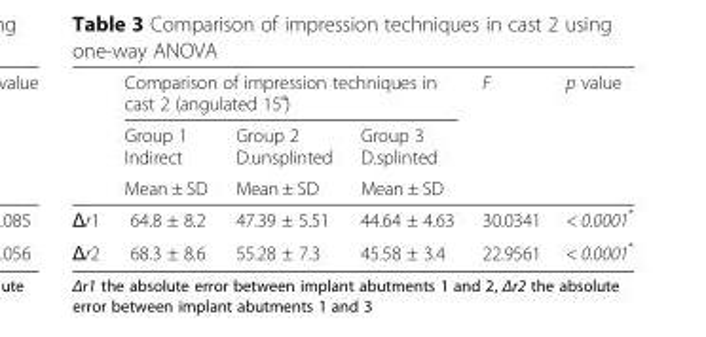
<table><thead><tr><td rowspan="3"></td><td colspan="3">Comparison of impression techniques in cast 2 (angulated 15<sup>৹</sup>)</td><td rowspan="3">F</td><td rowspan="3">p value</td></tr><tr><td rowspan="2">Group 1 Indirect Mean ± SD</td><td rowspan="2">Group 2 D.unsplinted Mean ± SD</td><td rowspan="2">Group 3 D.splinted Mean ± SD</td></tr><tr></tr></thead><tbody><tr><td>Δr1</td><td>64.8 ± 8.2</td><td>47.39 ± 5.51</td><td>44.64 ± 4.63</td><td>30.0341</td><td>&lt; 0.0001*</td></tr><tr><td>Δr2</td><td>68.3 ± 8.6</td><td>55.28 ± 7.3</td><td>45.58 ± 3.4</td><td>22.9561</td><td>&lt; 0.0001*</td></tr></tbody></table>